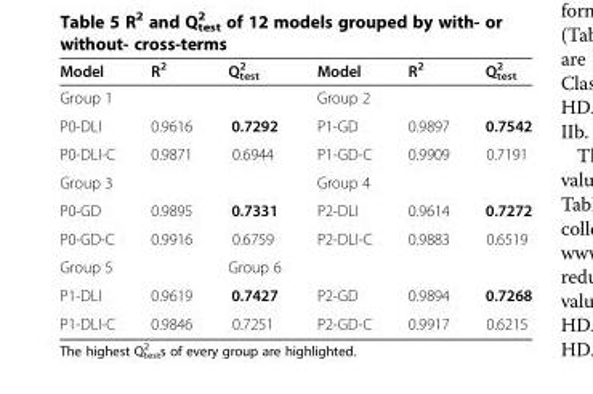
<table><thead><tr><td>Model</td><td>R<sup>2</sup></td><td>Q<sup>2</sup> <sub>test</sub></td><td>Model</td><td>R<sup>2</sup></td><td>Q<sup>2</sup> <sub>test</sub></td></tr></thead><tbody><tr><td>Group 1</td><td></td><td></td><td>Group 2</td><td></td><td></td></tr><tr><td>P0-DLI</td><td>0.9616</td><td>0.7292</td><td>P1-GD</td><td>0.9897</td><td>0.7542</td></tr><tr><td>P0-DLI-C</td><td>0.9871</td><td>0.6944</td><td>P1-GD-C</td><td>0.9909</td><td>0.7191</td></tr><tr><td>Group 3</td><td></td><td></td><td>Group 4</td><td></td><td></td></tr><tr><td>P0-GD</td><td>0.9895</td><td>0.7331</td><td>P2-DLI</td><td>0.9614</td><td>0.7272</td></tr><tr><td>P0-GD-C</td><td>0.9916</td><td>0.6759</td><td>P2-DLI-C</td><td>0.9883</td><td>0.6519</td></tr><tr><td>Group 5</td><td></td><td>Group 6</td><td></td><td></td><td></td></tr><tr><td>P1-DLI</td><td>0.9619</td><td>0.7427</td><td>P2-GD</td><td>0.9894</td><td>0.7268</td></tr><tr><td>P1-DLI-C</td><td>0.9846</td><td>0.7251</td><td>P2-GD-C</td><td>0.9917</td><td>0.6215</td></tr></tbody></table>